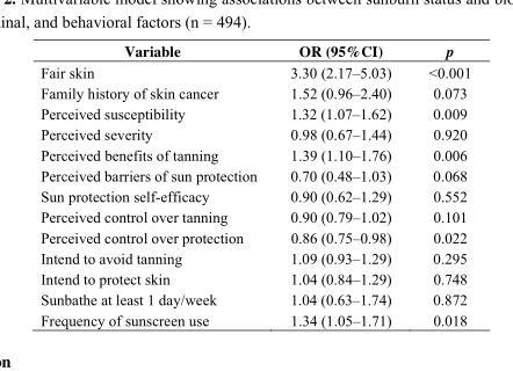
<table><thead><tr><td>Variable</td><td>OR (95%CI)</td><td>p</td></tr></thead><tbody><tr><td>Fair skin</td><td>3.30 (2.17–5.03)</td><td>&lt;0.001</td></tr><tr><td>Family history of skin cancer</td><td>1.52 (0.96–2.40)</td><td>0.073</td></tr><tr><td>Perceived susceptibility</td><td>1.32 (1.07–1.62)</td><td>0.009</td></tr><tr><td>Perceived severity</td><td>0.98 (0.67–1.44)</td><td>0.920</td></tr><tr><td>Perceived benefits of tanning</td><td>1.39 (1.10–1.76)</td><td>0.006</td></tr><tr><td>Perceived barriers of sun protection</td><td>0.70 (0.48–1.03)</td><td>0.068</td></tr><tr><td>Sun protection self-efficacy</td><td>0.90 (0.62–1.29)</td><td>0.552</td></tr><tr><td>Perceived control over tanning</td><td>0.90 (0.79–1.02)</td><td>0.101</td></tr><tr><td>Perceived control over protection</td><td>0.86 (0.75–0.98)</td><td>0.022</td></tr><tr><td>Intend to avoid tanning</td><td>1.09 (0.93–1.29)</td><td>0.295</td></tr><tr><td>Intend to protect skin</td><td>1.04 (0.84–1.29)</td><td>0.748</td></tr><tr><td>Sunbathe at least 1 day/week</td><td>1.04 (0.63–1.74)</td><td>0.872</td></tr><tr><td>Frequency of sunscreen use</td><td>1.34 (1.05–1.71)</td><td>0.018</td></tr></tbody></table>